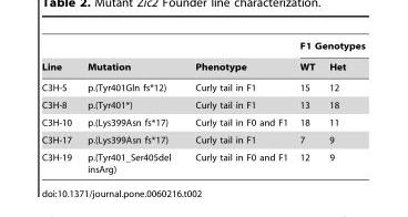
<table><thead><tr><td rowspan="2">Line</td><td rowspan="2">Mutation</td><td rowspan="2">Phenotype</td><td colspan="2">F1 Genotypes</td></tr><tr><td>WT</td><td>Het</td></tr></thead><tbody><tr><td>C3H-5</td><td>p.(Tyr401Gln fs*12)</td><td>Curly tail in F1</td><td>15</td><td>12</td></tr><tr><td>C3H-8</td><td>p.(Tyr401*)</td><td>Curly tail in F1</td><td>13</td><td>18</td></tr><tr><td>C3H-10</td><td>p.(Lys399Asn fs*17)</td><td>Curly tail in F0 and F1</td><td>18</td><td>11</td></tr><tr><td>C3H-17</td><td>p.(Lys399Asn fs*17)</td><td>Curly tail in F1</td><td>7</td><td>9</td></tr><tr><td>C3H-19</td><td>p.(Tyr401_Ser405del insArg)</td><td>Curly tail in F0 and F1</td><td>12</td><td>9</td></tr></tbody></table>